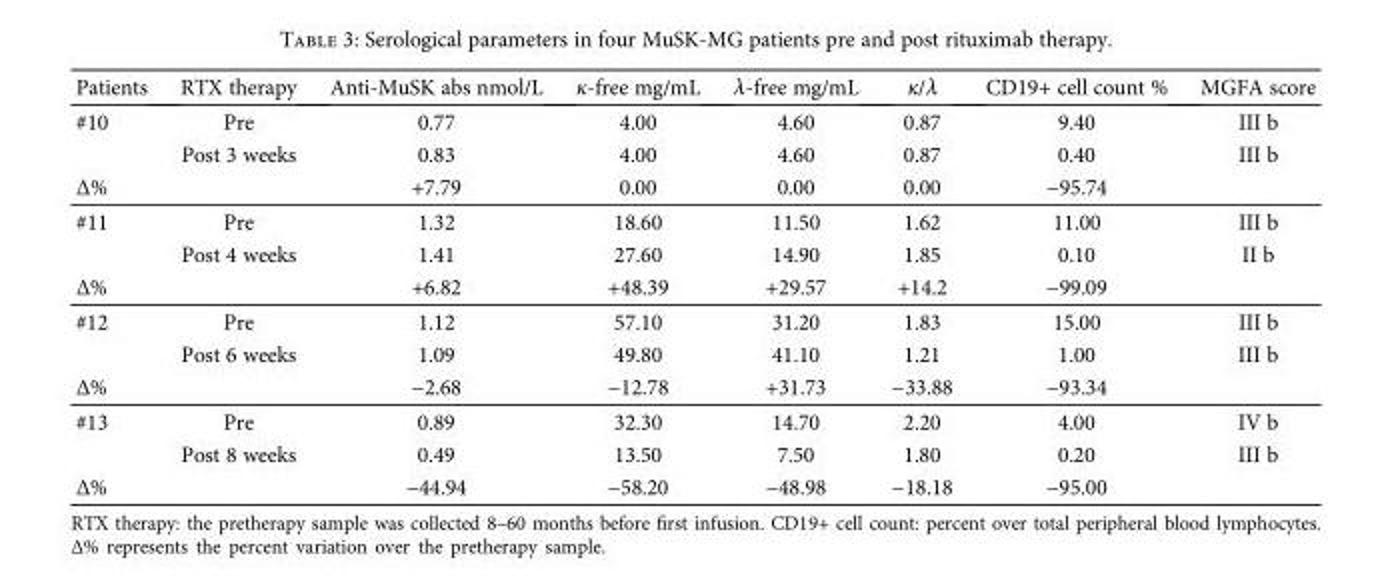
<table><thead><tr><td>Patients</td><td>RTX therapy</td><td>Anti-MuSK abs nmol/L</td><td>κ-free mg/mL</td><td>λ-free mg/mL</td><td>κ/λ</td><td>CD19+ cell count %</td><td>MGFA score</td></tr></thead><tbody><tr><td rowspan="2">#10</td><td>Pre</td><td>0.77</td><td>4.00</td><td>4.60</td><td>0.87</td><td>9.40</td><td>III b</td></tr><tr><td>Post 3 weeks</td><td>0.83</td><td>4.00</td><td>4.60</td><td>0.87</td><td>0.40</td><td>III b</td></tr><tr><td>Δ%</td><td></td><td>+7.79</td><td>0.00</td><td>0.00</td><td>0.00</td><td>−95.74</td><td></td></tr><tr><td rowspan="2">#11</td><td>Pre</td><td>1.32</td><td>18.60</td><td>11.50</td><td>1.62</td><td>11.00</td><td>III b</td></tr><tr><td>Post 4 weeks</td><td>1.41</td><td>27.60</td><td>14.90</td><td>1.85</td><td>0.10</td><td>II b</td></tr><tr><td>Δ%</td><td></td><td>+6.82</td><td>+48.39</td><td>+29.57</td><td>+14.2</td><td>−99.09</td><td></td></tr><tr><td rowspan="2">#12</td><td>Pre</td><td>1.12</td><td>57.10</td><td>31.20</td><td>1.83</td><td>15.00</td><td>III b</td></tr><tr><td>Post 6 weeks</td><td>1.09</td><td>49.80</td><td>41.10</td><td>1.21</td><td>1.00</td><td>III b</td></tr><tr><td>Δ%</td><td></td><td>−2.68</td><td>−12.78</td><td>+31.73</td><td>−33.88</td><td>−93.34</td><td></td></tr><tr><td rowspan="2">#13</td><td>Pre</td><td>0.89</td><td>32.30</td><td>14.70</td><td>2.20</td><td>4.00</td><td>IV b</td></tr><tr><td>Post 8 weeks</td><td>0.49</td><td>13.50</td><td>7.50</td><td>1.80</td><td>0.20</td><td>III b</td></tr><tr><td>Δ%</td><td></td><td>−44.94</td><td>−58.20</td><td>−48.98</td><td>−18.18</td><td>−95.00</td><td></td></tr></tbody></table>